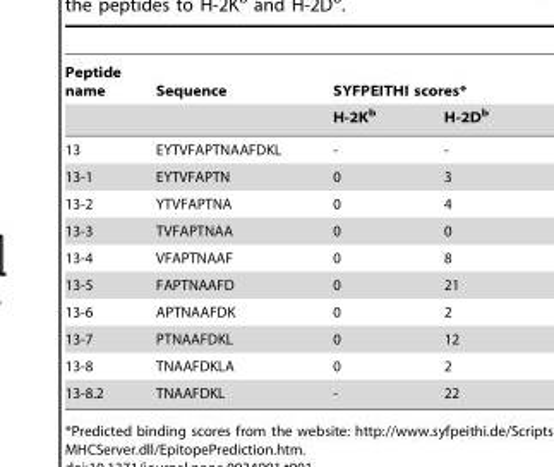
<table><thead><tr><td rowspan="2">Peptide name</td><td rowspan="2">Sequence</td><td colspan="2">SYFPEITHI scores*</td></tr><tr><td>H-2K<sup>b</sup></td><td>H-2D<sup>b</sup></td></tr></thead><tbody><tr><td>13</td><td>EYTVFAPTNAAFDKL</td><td>-</td><td>-</td></tr><tr><td>13-1</td><td>EYTVFAPTN</td><td>0</td><td>3</td></tr><tr><td>13-2</td><td>YTVFAPTNA</td><td>0</td><td>4</td></tr><tr><td>13-3</td><td>TVFAPTNAA</td><td>0</td><td>0</td></tr><tr><td>13-4</td><td>VFAPTNAAF</td><td>0</td><td>8</td></tr><tr><td>13-5</td><td>FAPTNAAFD</td><td>0</td><td>21</td></tr><tr><td>13-6</td><td>APTNAAFDK</td><td>0</td><td>2</td></tr><tr><td>13-7</td><td>PTNAAFDKL</td><td>0</td><td>12</td></tr><tr><td>13-8</td><td>TNAAFDKLA</td><td>0</td><td>2</td></tr><tr><td>13-8.2</td><td>TNAAFDKL</td><td>-</td><td>22</td></tr></tbody></table>